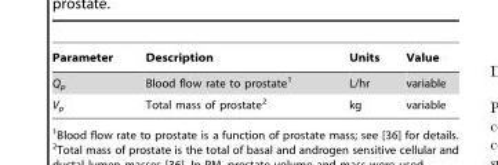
<table><thead><tr><td>Parameter</td><td>Description</td><td>Units</td><td>Value</td></tr></thead><tbody><tr><td>Q<sub>p</sub></td><td>Blood flow rate to prostate<sup>1</sup></td><td>L/hr</td><td>variable</td></tr><tr><td>V<sub>p</sub></td><td>Total mass of prostate<sup>2</sup></td><td>kg</td><td>variable</td></tr></tbody></table>